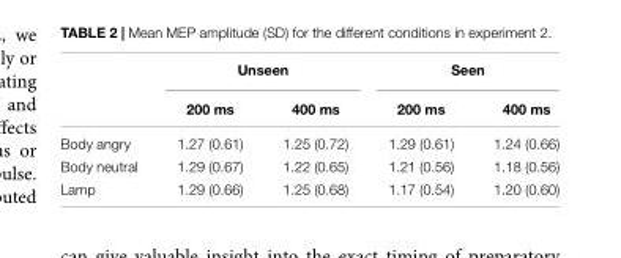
<table><thead><tr><td rowspan="2"></td><td colspan="2">Unseen</td><td colspan="2">Seen</td></tr><tr><td>200 ms</td><td>400 ms</td><td>200 ms</td><td>400 ms</td></tr></thead><tbody><tr><td>Body angry</td><td>1.27 (0.61)</td><td>1.25 (0.72)</td><td>1.29 (0.61)</td><td>1.24 (0.66)</td></tr><tr><td>Body neutral</td><td>1.29 (0.67)</td><td>1.22 (0.65)</td><td>1.21 (0.56)</td><td>1.18 (0.56)</td></tr><tr><td>Lamp</td><td>1.29 (0.66)</td><td>1.25 (0.68)</td><td>1.17 (0.54)</td><td>1.20 (0.60)</td></tr></tbody></table>